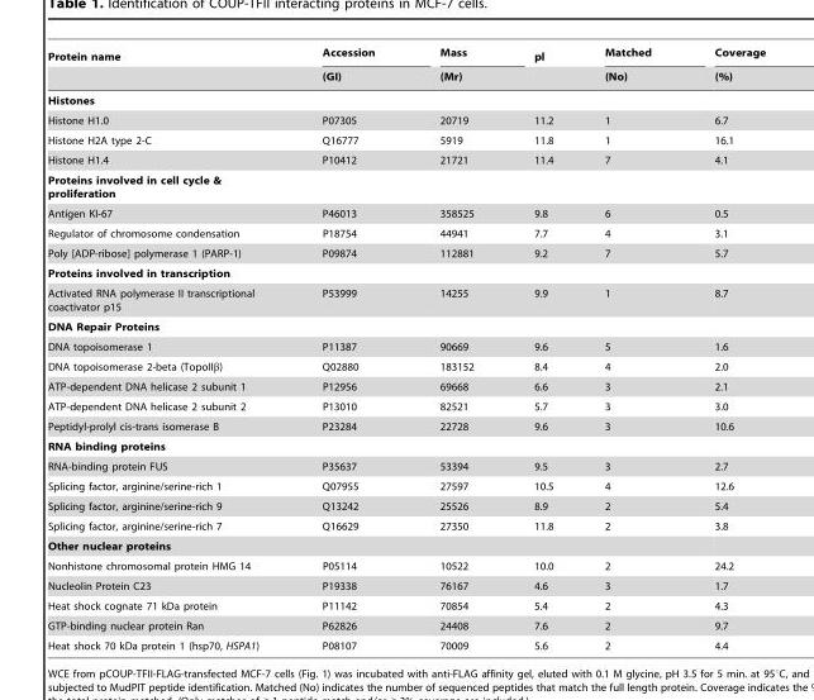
<table><thead><tr><td rowspan="2">Protein name</td><td rowspan="2">Accession (GI)</td><td rowspan="2">Mass (Mr)</td><td rowspan="2">pl</td><td rowspan="2">Matched (No)</td><td rowspan="2">Coverage (%)</td></tr><tr></tr></thead><tbody><tr><td colspan="6">Histones</td></tr><tr><td>Histone H1.0</td><td>P07305</td><td>20719</td><td>11.2</td><td>1</td><td>6.7</td></tr><tr><td>Histone H2A type 2-C</td><td>Q16777</td><td>5919</td><td>11.8</td><td>1</td><td>16.1</td></tr><tr><td>Histone H1.4</td><td>P10412</td><td>21721</td><td>11.4</td><td>7</td><td>4.1</td></tr><tr><td colspan="6">Proteins involved in cell cycle &amp; proliferation</td></tr><tr><td>Antigen KI-67</td><td>P46013</td><td>358525</td><td>9.8</td><td>6</td><td>0.5</td></tr><tr><td>Regulator of chromosome condensation</td><td>P18754</td><td>44941</td><td>7.7</td><td>4</td><td>3.1</td></tr><tr><td>Poly [ADP-ribose] polymerase 1 (PARP-1)</td><td>P09874</td><td>112881</td><td>9.2</td><td>7</td><td>5.7</td></tr><tr><td colspan="6">Proteins involved in transcription</td></tr><tr><td>Activated RNA polymerase II transcriptional coactivator p15</td><td>P53999</td><td>14255</td><td>9.9</td><td>1</td><td>8.7</td></tr><tr><td colspan="6">DNA Repair Proteins</td></tr><tr><td>DNA topoisomerase 1</td><td>P11387</td><td>90669</td><td>9.6</td><td>5</td><td>1.6</td></tr><tr><td>DNA topoisomerase 2-beta (TopoIIβ)</td><td>Q02880</td><td>183152</td><td>8.4</td><td>4</td><td>2.0</td></tr><tr><td>ATP-dependent DNA helicase 2 subunit 1</td><td>P12956</td><td>69668</td><td>6.6</td><td>3</td><td>2.1</td></tr><tr><td>ATP-dependent DNA helicase 2 subunit 2</td><td>P13010</td><td>82521</td><td>5.7</td><td>3</td><td>3.0</td></tr><tr><td>Peptidyl-prolyl cis-trans isomerase B</td><td>P23284</td><td>22728</td><td>9.6</td><td>3</td><td>10.6</td></tr><tr><td colspan="6">RNA binding proteins</td></tr><tr><td>RNA-binding protein FUS</td><td>P35637</td><td>53394</td><td>9.5</td><td>3</td><td>2.7</td></tr><tr><td>Splicing factor, arginine/serine-rich 1</td><td>Q07955</td><td>27597</td><td>10.5</td><td>4</td><td>12.6</td></tr><tr><td>Splicing factor, arginine/serine-rich 9</td><td>Q13242</td><td>25526</td><td>8.9</td><td>2</td><td>5.4</td></tr><tr><td>Splicing factor, arginine/serine-rich 7</td><td>Q16629</td><td>27350</td><td>11.8</td><td>2</td><td>3.8</td></tr><tr><td colspan="6">Other nuclear proteins</td></tr><tr><td>Nonhistone chromosomal protein HMG 14</td><td>P05114</td><td>10522</td><td>10.0</td><td>2</td><td>24.2</td></tr><tr><td>Nucleolin Protein C23</td><td>P19338</td><td>76167</td><td>4.6</td><td>3</td><td>1.7</td></tr><tr><td>Heat shock cognate 71 kDa protein</td><td>P11142</td><td>70854</td><td>5.4</td><td>2</td><td>4.3</td></tr><tr><td>GTP-binding nuclear protein Ran</td><td>P62826</td><td>24408</td><td>7.6</td><td>2</td><td>9.7</td></tr><tr><td>Heat shock 70 kDa protein 1 (hsp70, HSPA1)</td><td>P08107</td><td>70009</td><td>5.6</td><td>2</td><td>4.4</td></tr></tbody></table>